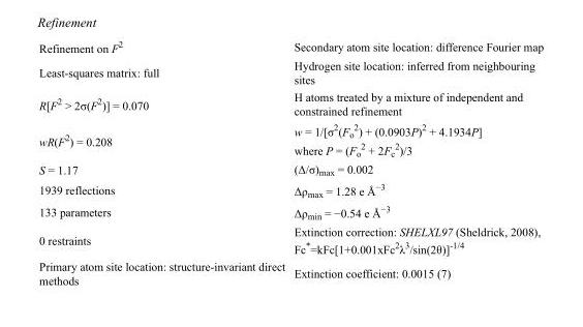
<table><tbody><tr><td>Refinement on F<sup>2</sup></td><td>Secondary atom site location: difference Fourier map</td></tr><tr><td>Least-squares matrix: full</td><td>Hydrogen site location: inferred from neighbouring sites</td></tr><tr><td>R[F<sup>2</sup> &gt; 2σ(F<sup>2</sup>)] = 0.070</td><td>H atoms treated by a mixture of independent and constrained refinement</td></tr><tr><td>wR(F<sup>2</sup>) = 0.208</td><td>w = 1/[σ<sup>2</sup>(F<sub>o</sub> <sup>2</sup>) + (0.0903P)<sup>2</sup> + 4.1934P] where P = (F<sub>o</sub> <sup>2</sup> + 2F<sub>c</sub> <sup>2</sup>)/3</td></tr><tr><td>S = 1.17</td><td>(Δ/σ)<sub>max</sub> = 0.002</td></tr><tr><td>1939 reflections</td><td>Δρ<sub>max</sub> = 1.28 e Å<sup>−3</sup></td></tr><tr><td>133 parameters</td><td>Δρ<sub>min</sub> = −0.54 e Å<sup>−3</sup></td></tr><tr><td>0 restraints</td><td>Extinction correction: SHELXL97 (Sheldrick, 2008), Fc*=kFc[1+0.001xFc<sup>2</sup>λ<sup>3</sup>/sin(2θ)]<sup>-1/4</sup></td></tr><tr><td>Primary atom site location: structure-invariant direct methods</td><td>Extinction coefficient: 0.0015 (7)</td></tr></tbody></table>